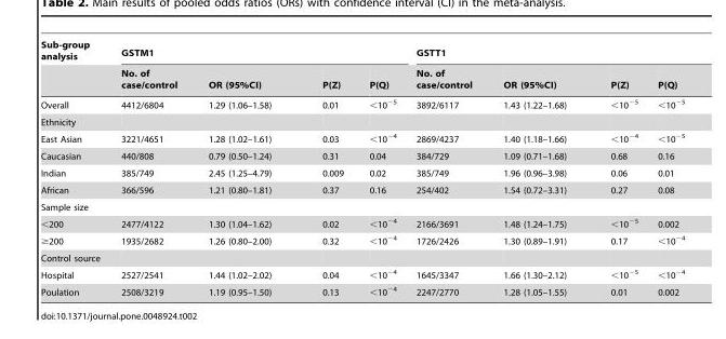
<table><thead><tr><td rowspan="2">Sub-group analysis</td><td colspan="4">GSTM1</td><td colspan="4">GSTT1</td></tr><tr><td>No. of case/control</td><td>OR (95%CI)</td><td>P(Z)</td><td>P(Q)</td><td>No. of case/control</td><td>OR (95%CI)</td><td>P(Z)</td><td>P(Q)</td></tr></thead><tbody><tr><td>Overall</td><td>4412/6804</td><td>1.29 (1.06–1.58)</td><td>0.01</td><td>&lt;10<sup>−5</sup></td><td>3892/6117</td><td>1.43 (1.22–1.68)</td><td>&lt;10<sup>−5</sup></td><td>&lt;10<sup>−5</sup></td></tr><tr><td colspan="9">Ethnicity</td></tr><tr><td>East Asian</td><td>3221/4651</td><td>1.28 (1.02–1.61)</td><td>0.03</td><td>&lt;10<sup>−4</sup></td><td>2869/4237</td><td>1.40 (1.18–1.66)</td><td>&lt;10<sup>−4</sup></td><td>&lt;10<sup>−5</sup></td></tr><tr><td>Caucasian</td><td>440/808</td><td>0.79 (0.50–1.24)</td><td>0.31</td><td>0.04</td><td>384/729</td><td>1.09 (0.71–1.68)</td><td>0.68</td><td>0.16</td></tr><tr><td>Indian</td><td>385/749</td><td>2.45 (1.25–4.79)</td><td>0.009</td><td>0.02</td><td>385/749</td><td>1.96 (0.96–3.98)</td><td>0.06</td><td>0.01</td></tr><tr><td>African</td><td>366/596</td><td>1.21 (0.80–1.81)</td><td>0.37</td><td>0.16</td><td>254/402</td><td>1.54 (0.72–3.31)</td><td>0.27</td><td>0.08</td></tr><tr><td colspan="9">Sample size</td></tr><tr><td>&lt;200</td><td>2477/4122</td><td>1.30 (1.04–1.62)</td><td>0.02</td><td>&lt;10<sup>−4</sup></td><td>2166/3691</td><td>1.48 (1.24–1.75)</td><td>&lt;10<sup>−5</sup></td><td>0.002</td></tr><tr><td>≥200</td><td>1935/2682</td><td>1.26 (0.80–2.00)</td><td>0.32</td><td>&lt;10<sup>−4</sup></td><td>1726/2426</td><td>1.30 (0.89–1.91)</td><td>0.17</td><td>&lt;10<sup>−4</sup></td></tr><tr><td colspan="9">Control source</td></tr><tr><td>Hospital</td><td>2527/2541</td><td>1.44 (1.02–2.02)</td><td>0.04</td><td>&lt;10<sup>−4</sup></td><td>1645/3347</td><td>1.66 (1.30–2.12)</td><td>&lt;10<sup>−5</sup></td><td>&lt;10<sup>−4</sup></td></tr><tr><td>Poulation</td><td>2508/3219</td><td>1.19 (0.95–1.50)</td><td>0.13</td><td>&lt;10<sup>−4</sup></td><td>2247/2770</td><td>1.28 (1.05–1.55)</td><td>0.01</td><td>0.002</td></tr></tbody></table>